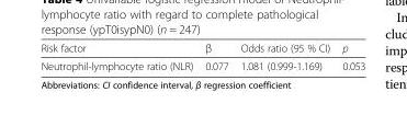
<table><thead><tr><td>Risk factor</td><td>β</td><td>Odds ratio (95 % CI)</td><td>p</td></tr></thead><tbody><tr><td>Neutrophil-lymphocyte ratio (NLR)</td><td>0.077</td><td>1.081 (0.999-1.169)</td><td>0.053</td></tr></tbody></table>